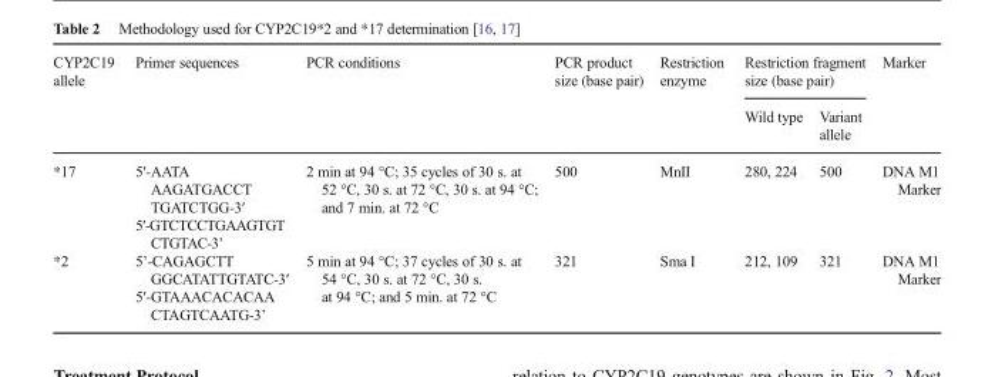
<table><thead><tr><td rowspan="2">CYP2C19 allele</td><td rowspan="2">Primer sequences</td><td rowspan="2">PCR conditions</td><td rowspan="2">PCR product size (base pair)</td><td rowspan="2">Restriction enzyme</td><td colspan="2">Restriction fragment size (base pair)</td><td rowspan="2">Marker</td></tr><tr><td>Wild type</td><td>Variant allele</td></tr></thead><tbody><tr><td>*17</td><td>5′-AATA AAGATGACCT TGATCTGG-3′ 5′-GTCTCCTGAAGTGT CTGTAC-3’</td><td>2 min at 94 °C; 35 cycles of 30 s. at 52 °C, 30 s. at 72 °C, 30 s. at 94 °C; and 7 min. at 72 °C</td><td>500</td><td>MnII</td><td>280, 224</td><td>500</td><td>DNA M1 Marker</td></tr><tr><td>*2</td><td>5’-CAGAGCTT GGCATATTGTATC-3′ 5′-GTAAACACACAA CTAGTCAATG-3’</td><td>5 min at 94 °C; 37 cycles of 30 s. at 54 °C, 30 s. at 72 °C, 30 s. at 94 °C; and 5 min. at 72 °C</td><td>321</td><td>Sma I</td><td>212, 109</td><td>321</td><td>DNA M1 Marker</td></tr></tbody></table>